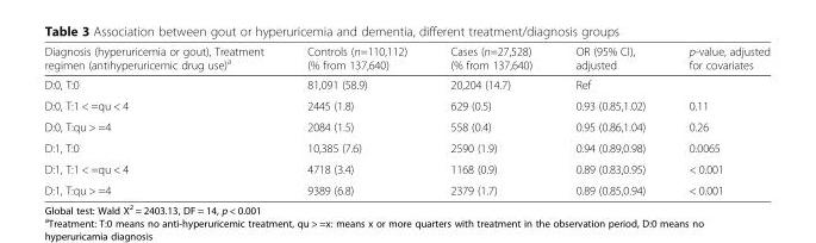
<table><thead><tr><td>Diagnosis (hyperuricemia or gout), Treatment regimen (antihyperuricemic drug use)<sup>a</sup></td><td>Controls (n=110,112) (% from 137,640)</td><td>Cases (n=27,528) (% from 137,640)</td><td>OR (95% CI), adjusted</td><td>p-value, adjusted for covariates</td></tr></thead><tbody><tr><td>D:0, T:0</td><td>81,091 (58.9)</td><td>20,204 (14.7)</td><td>Ref</td><td></td></tr><tr><td>D:0, T:1 &lt; =qu &lt; 4</td><td>2445 (1.8)</td><td>629 (0.5)</td><td>0.93 (0.85,1.02)</td><td>0.11</td></tr><tr><td>D:0, T:qu &gt; =4</td><td>2084 (1.5)</td><td>558 (0.4)</td><td>0.95 (0.86,1.04)</td><td>0.26</td></tr><tr><td>D:1, T:0</td><td>10,385 (7.6)</td><td>2590 (1.9)</td><td>0.94 (0.89,0.98)</td><td>0.0065</td></tr><tr><td>D:1, T:1 &lt; =qu &lt; 4</td><td>4718 (3.4)</td><td>1168 (0.9)</td><td>0.89 (0.83,0.95)</td><td>&lt; 0.001</td></tr><tr><td>D:1, T:qu &gt; =4</td><td>9389 (6.8)</td><td>2379 (1.7)</td><td>0.89 (0.85,0.94)</td><td>&lt; 0.001</td></tr></tbody></table>